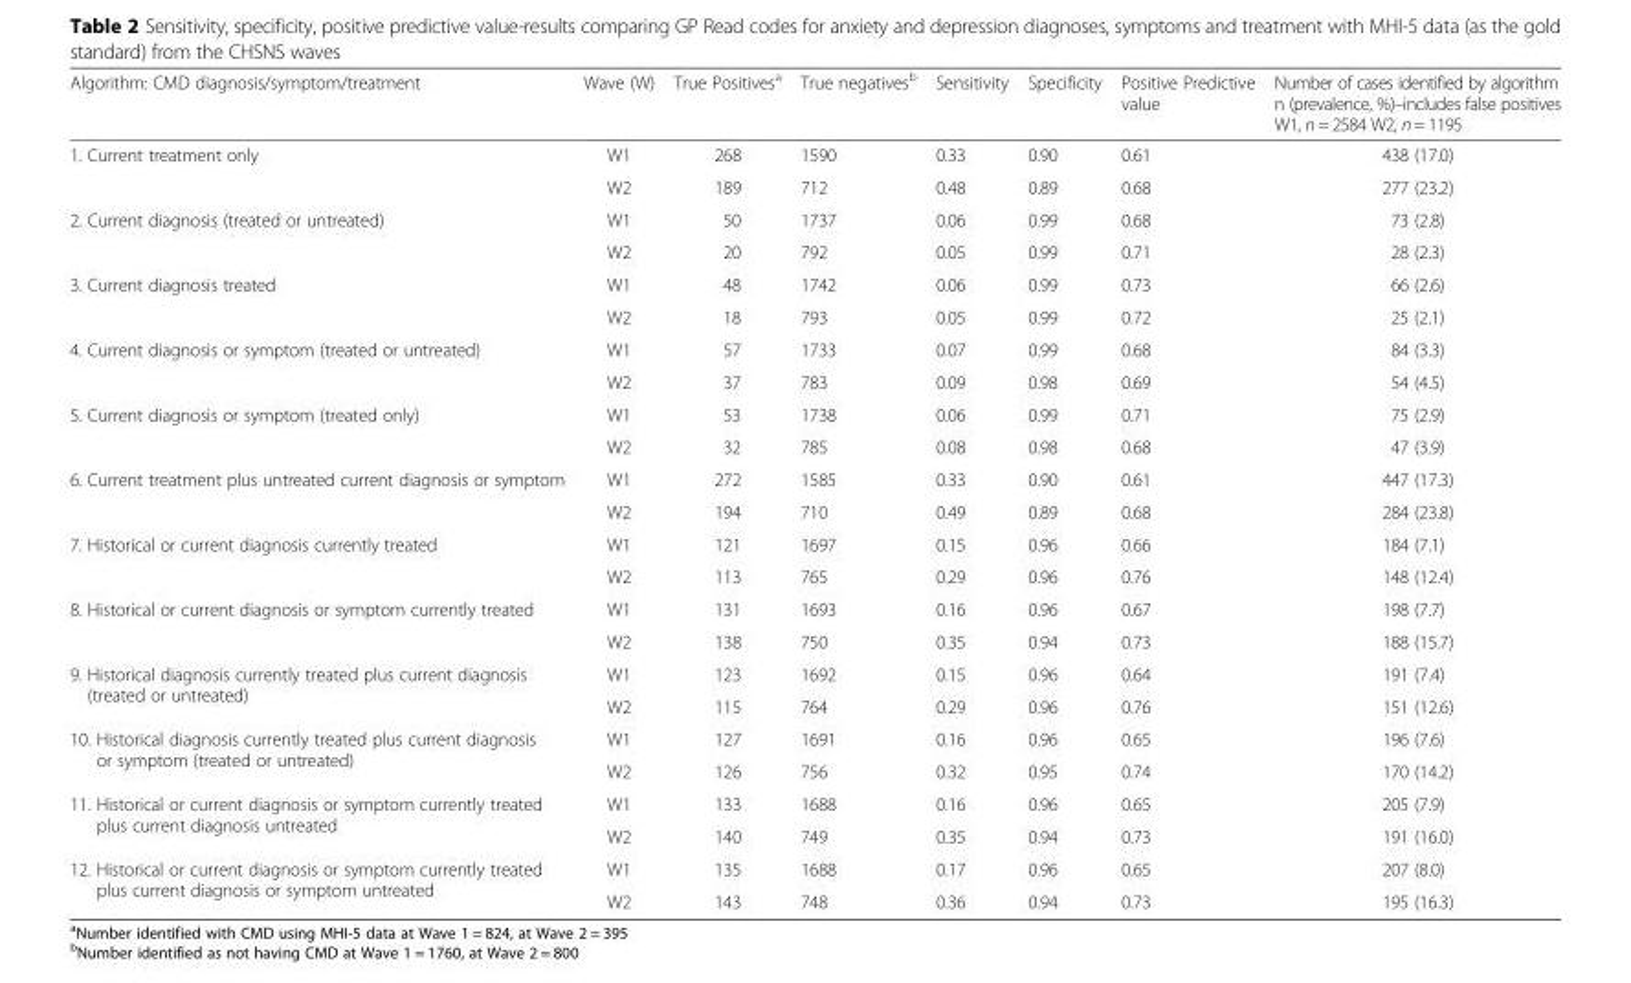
<table><thead><tr><td>Algorithm: CMD diagnosis/symptom/treatment</td><td>Wave (W)</td><td>True Positives<sup>a</sup></td><td>True negatives<sup>b</sup></td><td>Sensitivity</td><td>Specificity</td><td>Positive Predictive value</td><td>Number of cases identified by algorithm n (prevalence, %)–includes false positives W1, n = 2584 W2, n = 1195</td></tr></thead><tbody><tr><td rowspan="2">1. Current treatment only</td><td>W1</td><td>268</td><td>1590</td><td>0.33</td><td>0.90</td><td>0.61</td><td>438 (17.0)</td></tr><tr><td>W2</td><td>189</td><td>712</td><td>0.48</td><td>0.89</td><td>0.68</td><td>277 (23.2)</td></tr><tr><td rowspan="2">2. Current diagnosis (treated or untreated)</td><td>W1</td><td>50</td><td>1737</td><td>0.06</td><td>0.99</td><td>0.68</td><td>73 (2.8)</td></tr><tr><td>W2</td><td>20</td><td>792</td><td>0.05</td><td>0.99</td><td>0.71</td><td>28 (2.3)</td></tr><tr><td rowspan="2">3. Current diagnosis treated</td><td>W1</td><td>48</td><td>1742</td><td>0.06</td><td>0.99</td><td>0.73</td><td>66 (2.6)</td></tr><tr><td>W2</td><td>18</td><td>793</td><td>0.05</td><td>0.99</td><td>0.72</td><td>25 (2.1)</td></tr><tr><td rowspan="2">4. Current diagnosis or symptom (treated or untreated)</td><td>W1</td><td>57</td><td>1733</td><td>0.07</td><td>0.99</td><td>0.68</td><td>84 (3.3)</td></tr><tr><td>W2</td><td>37</td><td>783</td><td>0.09</td><td>0.98</td><td>0.69</td><td>54 (4.5)</td></tr><tr><td rowspan="2">5. Current diagnosis or symptom (treated only)</td><td>W1</td><td>53</td><td>1738</td><td>0.06</td><td>0.99</td><td>0.71</td><td>75 (2.9)</td></tr><tr><td>W2</td><td>32</td><td>785</td><td>0.08</td><td>0.98</td><td>0.68</td><td>47 (3.9)</td></tr><tr><td rowspan="2">6. Current treatment plus untreated current diagnosis or symptom</td><td>W1</td><td>272</td><td>1585</td><td>0.33</td><td>0.90</td><td>0.61</td><td>447 (17.3)</td></tr><tr><td>W2</td><td>194</td><td>710</td><td>0.49</td><td>0.89</td><td>0.68</td><td>284 (23.8)</td></tr><tr><td rowspan="2">7. Historical or current diagnosis currently treated</td><td>W1</td><td>121</td><td>1697</td><td>0.15</td><td>0.96</td><td>0.66</td><td>184 (7.1)</td></tr><tr><td>W2</td><td>113</td><td>765</td><td>0.29</td><td>0.96</td><td>0.76</td><td>148 (12.4)</td></tr><tr><td rowspan="2">8. Historical or current diagnosis or symptom currently treated</td><td>W1</td><td>131</td><td>1693</td><td>0.16</td><td>0.96</td><td>0.67</td><td>198 (7.7)</td></tr><tr><td>W2</td><td>138</td><td>750</td><td>0.35</td><td>0.94</td><td>0.73</td><td>188 (15.7)</td></tr><tr><td rowspan="2">9. Historical diagnosis currently treated plus current diagnosis (treated or untreated)</td><td>W1</td><td>123</td><td>1692</td><td>0.15</td><td>0.96</td><td>0.64</td><td>191 (7.4)</td></tr><tr><td>W2</td><td>115</td><td>764</td><td>0.29</td><td>0.96</td><td>0.76</td><td>151 (12.6)</td></tr><tr><td rowspan="2">10. Historical diagnosis currently treated plus current diagnosis or symptom (treated or untreated)</td><td>W1</td><td>127</td><td>1691</td><td>0.16</td><td>0.96</td><td>0.65</td><td>196 (7.6)</td></tr><tr><td>W2</td><td>126</td><td>756</td><td>0.32</td><td>0.95</td><td>0.74</td><td>170 (14.2)</td></tr><tr><td rowspan="2">11. Historical or current diagnosis or symptom currently treated plus current diagnosis untreated</td><td>W1</td><td>133</td><td>1688</td><td>0.16</td><td>0.96</td><td>0.65</td><td>205 (7.9)</td></tr><tr><td>W2</td><td>140</td><td>749</td><td>0.35</td><td>0.94</td><td>0.73</td><td>191 (16.0)</td></tr><tr><td rowspan="2">12. Historical or current diagnosis or symptom currently treated plus current diagnosis or symptom untreated</td><td>W1</td><td>135</td><td>1688</td><td>0.17</td><td>0.96</td><td>0.65</td><td>207 (8.0)</td></tr><tr><td>W2</td><td>143</td><td>748</td><td>0.36</td><td>0.94</td><td>0.73</td><td>195 (16.3)</td></tr></tbody></table>